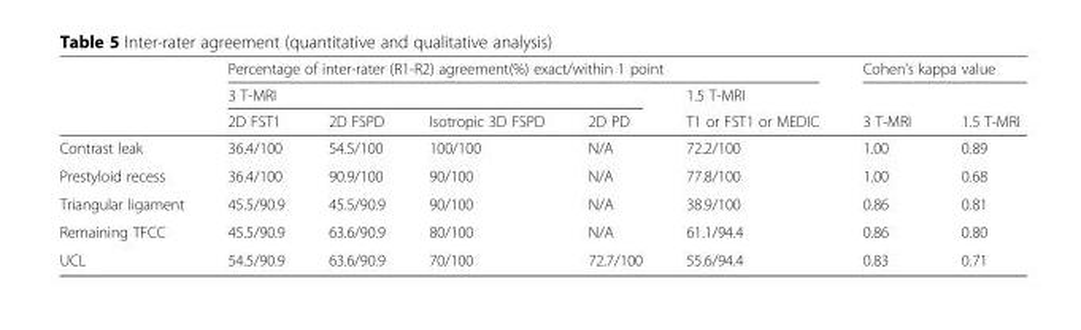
<table><thead><tr><td rowspan="3"></td><td colspan="5">Percentage of inter-rater (R1-R2) agreement(%) exact/within 1 point</td><td colspan="2">Cohen’s kappa value</td></tr><tr><td colspan="4">3 T-MRI</td><td rowspan="2">1.5 T-MRI T1 or FST1 or MEDIC</td><td rowspan="2">3 T-MRI</td><td rowspan="2">1.5 T-MRI</td></tr><tr><td>2D FST1</td><td>2D FSPD</td><td>Isotropic 3D FSPD</td><td>2D PD</td></tr></thead><tbody><tr><td>Contrast leak</td><td>36.4/100</td><td>54.5/100</td><td>100/100</td><td>N/A</td><td>72.2/100</td><td>1.00</td><td>0.89</td></tr><tr><td>Prestyloid recess</td><td>36.4/100</td><td>90.9/100</td><td>90/100</td><td>N/A</td><td>77.8/100</td><td>1.00</td><td>0.68</td></tr><tr><td>Triangular ligament</td><td>45.5/90.9</td><td>45.5/90.9</td><td>90/100</td><td>N/A</td><td>38.9/100</td><td>0.86</td><td>0.81</td></tr><tr><td>Remaining TFCC</td><td>45.5/90.9</td><td>63.6/90.9</td><td>80/100</td><td>N/A</td><td>61.1/94.4</td><td>0.86</td><td>0.80</td></tr><tr><td>UCL</td><td>54.5/90.9</td><td>63.6/90.9</td><td>70/100</td><td>72.7/100</td><td>55.6/94.4</td><td>0.83</td><td>0.71</td></tr></tbody></table>